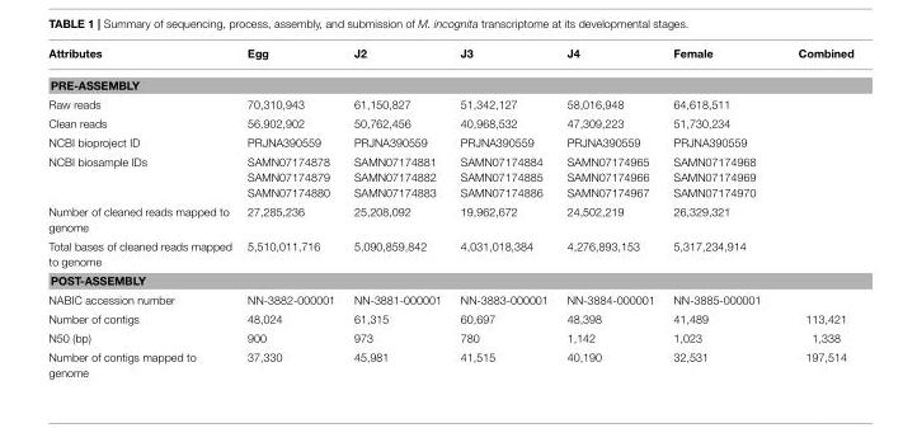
<table><thead><tr><td>Attributes</td><td>Egg</td><td>J2</td><td>J3</td><td>J4</td><td>Female</td><td>Combined</td></tr></thead><tbody><tr><td colspan="7">PRE-ASSEMBLY</td></tr><tr><td>Raw reads</td><td>70,310,943</td><td>61,150,827</td><td>51,342,127</td><td>58,016,948</td><td>64,618,511</td><td></td></tr><tr><td>Clean reads</td><td>56,902,902</td><td>50,762,456</td><td>40,968,532</td><td>47,309,223</td><td>51,730,234</td><td></td></tr><tr><td>NCBI bioproject ID</td><td>PRJNA390559</td><td>PRJNA390559</td><td>PRJNA390559</td><td>PRJNA390559</td><td>PRJNA390559</td><td></td></tr><tr><td>NCBI biosample IDs</td><td>SAMN07174878 SAMN07174879 SAMN07174880</td><td>SAMN07174881 SAMN07174882 SAMN07174883</td><td>SAMN07174884 SAMN07174885 SAMN07174886</td><td>SAMN07174965 SAMN07174966 SAMN07174967</td><td>SAMN07174968 SAMN07174969 SAMN07174970</td><td></td></tr><tr><td>Number of cleaned reads mapped to genome</td><td>27,285,236</td><td>25,208,092</td><td>19,962,672</td><td>24,502,219</td><td>26,329,321</td><td></td></tr><tr><td>Total bases of cleaned reads mapped to genome</td><td>5,510,011,716</td><td>5,090,859,842</td><td>4,031,018,384</td><td>4,276,893,153</td><td>5,317,234,914</td><td></td></tr><tr><td colspan="7">POST-ASSEMBLY</td></tr><tr><td>NABIC accession number</td><td>NN-3882-000001</td><td>NN-3881-000001</td><td>NN-3883-000001</td><td>NN-3884-000001</td><td>NN-3885-000001</td><td></td></tr><tr><td>Number of contigs</td><td>48,024</td><td>61,315</td><td>60,697</td><td>48,398</td><td>41,489</td><td>113,421</td></tr><tr><td>N50 (bp)</td><td>900</td><td>973</td><td>780</td><td>1,142</td><td>1,023</td><td>1,338</td></tr><tr><td>Number of contigs mapped to genome</td><td>37,330</td><td>45,981</td><td>41,515</td><td>40,190</td><td>32,531</td><td>197,514</td></tr></tbody></table>